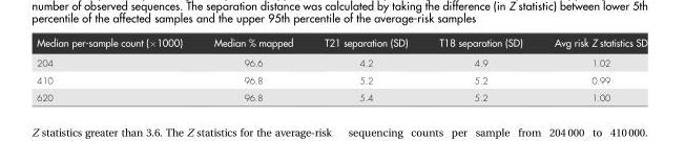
<table><thead><tr><td>Median per-sample count (×1000)</td><td>Median % mapped</td><td>T21 separation (SD)</td><td>T18 separation (SD)</td><td>Avg risk Z statistics SD</td></tr></thead><tbody><tr><td>204</td><td>96.6</td><td>4.2</td><td>4.9</td><td>1.02</td></tr><tr><td>410</td><td>96.8</td><td>5.2</td><td>5.2</td><td>0.99</td></tr><tr><td>620</td><td>96.8</td><td>5.4</td><td>5.2</td><td>1.00</td></tr></tbody></table>